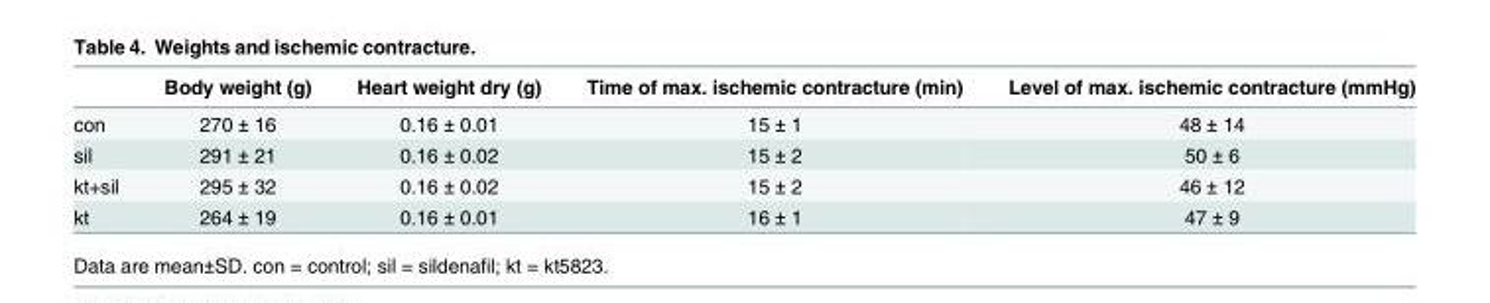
<table><thead><tr><td></td><td>Body weight (g)</td><td>Heart weight dry (g)</td><td>Time of max. ischemic contracture (min)</td><td>Level of max. ischemic contracture (mmHg)</td></tr></thead><tbody><tr><td>con</td><td>270 ± 16</td><td>0.16 ± 0.01</td><td>15 ± 1</td><td>48 ± 14</td></tr><tr><td>sil</td><td>291 ± 21</td><td>0.16 ± 0.02</td><td>15 ± 2</td><td>50 ± 6</td></tr><tr><td>kt+sil</td><td>295 ± 32</td><td>0.16 ± 0.02</td><td>15 ± 2</td><td>46 ± 12</td></tr><tr><td>kt</td><td>264 ± 19</td><td>0.16 ± 0.01</td><td>16 ± 1</td><td>47 ± 9</td></tr></tbody></table>